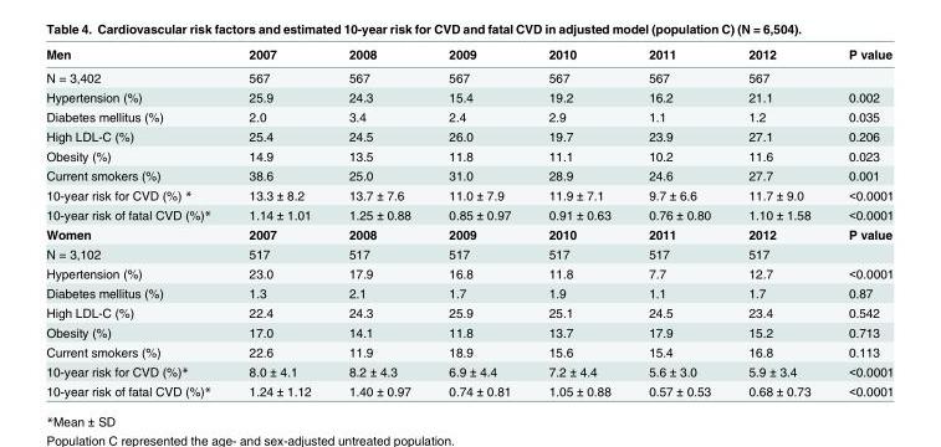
<table><thead><tr><td>Men</td><td>2007</td><td>2008</td><td>2009</td><td>2010</td><td>2011</td><td>2012</td><td>P value</td></tr></thead><tbody><tr><td>N = 3,402</td><td>567</td><td>567</td><td>567</td><td>567</td><td>567</td><td>567</td><td></td></tr><tr><td>Hypertension (%)</td><td>25.9</td><td>24.3</td><td>15.4</td><td>19.2</td><td>16.2</td><td>21.1</td><td>0.002</td></tr><tr><td>Diabetes mellitus (%)</td><td>2.0</td><td>3.4</td><td>2.4</td><td>2.9</td><td>1.1</td><td>1.2</td><td>0.035</td></tr><tr><td>High LDL-C (%)</td><td>25.4</td><td>24.5</td><td>26.0</td><td>19.7</td><td>23.9</td><td>27.1</td><td>0.206</td></tr><tr><td>Obesity (%)</td><td>14.9</td><td>13.5</td><td>11.8</td><td>11.1</td><td>10.2</td><td>11.6</td><td>0.023</td></tr><tr><td>Current smokers (%)</td><td>38.6</td><td>25.0</td><td>31.0</td><td>28.9</td><td>24.6</td><td>27.7</td><td>0.001</td></tr><tr><td>10-year risk for CVD (%) *</td><td>13.3 ± 8.2</td><td>13.7 ± 7.6</td><td>11.0 ± 7.9</td><td>11.9 ± 7.1</td><td>9.7 ± 6.6</td><td>11.7 ± 9.0</td><td>&lt;0.0001</td></tr><tr><td>10-year risk of fatal CVD (%)*</td><td>1.14 ± 1.01</td><td>1.25 ± 0.88</td><td>0.85 ± 0.97</td><td>0.91 ± 0.63</td><td>0.76 ± 0.80</td><td>1.10 ± 1.58</td><td>&lt;0.0001</td></tr><tr><td>Women</td><td>2007</td><td>2008</td><td>2009</td><td>2010</td><td>2011</td><td>2012</td><td>P value</td></tr><tr><td>N = 3,102</td><td>517</td><td>517</td><td>517</td><td>517</td><td>517</td><td>517</td><td></td></tr><tr><td>Hypertension (%)</td><td>23.0</td><td>17.9</td><td>16.8</td><td>11.8</td><td>7.7</td><td>12.7</td><td>&lt;0.0001</td></tr><tr><td>Diabetes mellitus (%)</td><td>1.3</td><td>2.1</td><td>1.7</td><td>1.9</td><td>1.1</td><td>1.7</td><td>0.87</td></tr><tr><td>High LDL-C (%)</td><td>22.4</td><td>24.3</td><td>25.9</td><td>25.1</td><td>24.5</td><td>23.4</td><td>0.542</td></tr><tr><td>Obesity (%)</td><td>17.0</td><td>14.1</td><td>11.8</td><td>13.7</td><td>17.9</td><td>15.2</td><td>0.713</td></tr><tr><td>Current smokers (%)</td><td>22.6</td><td>11.9</td><td>18.9</td><td>15.6</td><td>15.4</td><td>16.8</td><td>0.113</td></tr><tr><td>10-year risk for CVD (%)*</td><td>8.0 ± 4.1</td><td>8.2 ± 4.3</td><td>6.9 ± 4.4</td><td>7.2 ± 4.4</td><td>5.6 ± 3.0</td><td>5.9 ± 3.4</td><td>&lt;0.0001</td></tr><tr><td>10-year risk of fatal CVD (%)*</td><td>1.24 ± 1.12</td><td>1.40 ± 0.97</td><td>0.74 ± 0.81</td><td>1.05 ± 0.88</td><td>0.57 ± 0.53</td><td>0.68 ± 0.73</td><td>&lt;0.0001</td></tr></tbody></table>